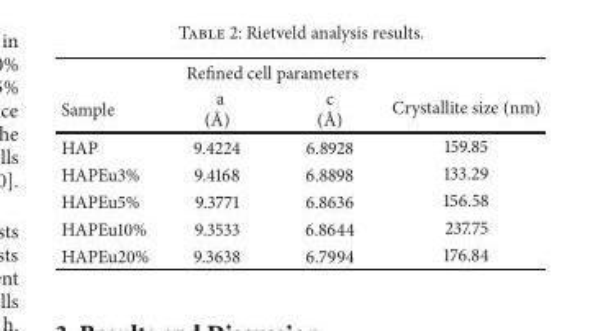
<table><thead><tr><td rowspan="2">Sample</td><td colspan="2">Refined cell parameters</td><td rowspan="2">Crystallite size (nm)</td></tr><tr><td>a (˚A)</td><td>c (˚A)</td></tr></thead><tbody><tr><td>HAP</td><td>9.4224</td><td>6.8928</td><td>159.85</td></tr><tr><td>HAPEu3%</td><td>9.4168</td><td>6.8898</td><td>133.29</td></tr><tr><td>HAPEu5%</td><td>9.3771</td><td>6.8636</td><td>156.58</td></tr><tr><td>HAPEu10%</td><td>9.3533</td><td>6.8644</td><td>237.75</td></tr><tr><td>HAPEu20%</td><td>9.3638</td><td>6.7994</td><td>176.84</td></tr></tbody></table>